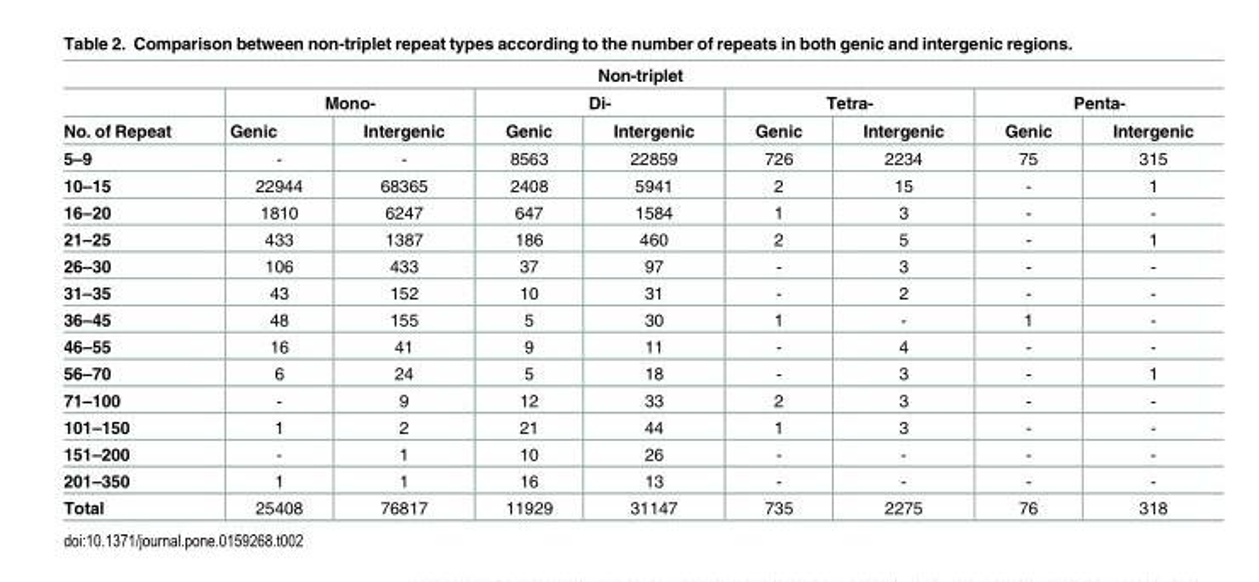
<table><thead><tr><td colspan="9">Non-triplet</td></tr><tr><td rowspan="2">No. of Repeat</td><td colspan="2">Mono-</td><td colspan="2">Di-</td><td colspan="2">Tetra-</td><td colspan="2">Penta-</td></tr><tr><td>Genic</td><td>Intergenic</td><td>Genic</td><td>Intergenic</td><td>Genic</td><td>Intergenic</td><td>Genic</td><td>Intergenic</td></tr></thead><tbody><tr><td>5–9</td><td>-</td><td>-</td><td>8563</td><td>22859</td><td>726</td><td>2234</td><td>75</td><td>315</td></tr><tr><td>10–15</td><td>22944</td><td>68365</td><td>2408</td><td>5941</td><td>2</td><td>15</td><td>-</td><td>1</td></tr><tr><td>16–20</td><td>1810</td><td>6247</td><td>647</td><td>1584</td><td>1</td><td>3</td><td>-</td><td>-</td></tr><tr><td>21–25</td><td>433</td><td>1387</td><td>186</td><td>460</td><td>2</td><td>5</td><td>-</td><td>1</td></tr><tr><td>26–30</td><td>106</td><td>433</td><td>37</td><td>97</td><td>-</td><td>3</td><td>-</td><td>-</td></tr><tr><td>31–35</td><td>43</td><td>152</td><td>10</td><td>31</td><td>-</td><td>2</td><td>-</td><td>-</td></tr><tr><td>36–45</td><td>48</td><td>155</td><td>5</td><td>30</td><td>1</td><td>-</td><td>1</td><td>-</td></tr><tr><td>46–55</td><td>16</td><td>41</td><td>9</td><td>11</td><td>-</td><td>4</td><td>-</td><td>-</td></tr><tr><td>56–70</td><td>6</td><td>24</td><td>5</td><td>18</td><td>-</td><td>3</td><td>-</td><td>1</td></tr><tr><td>71–100</td><td>-</td><td>9</td><td>12</td><td>33</td><td>2</td><td>3</td><td>-</td><td>-</td></tr><tr><td>101–150</td><td>1</td><td>2</td><td>21</td><td>44</td><td>1</td><td>3</td><td>-</td><td>-</td></tr><tr><td>151–200</td><td>-</td><td>1</td><td>10</td><td>26</td><td>-</td><td>-</td><td>-</td><td>-</td></tr><tr><td>201–350</td><td>1</td><td>1</td><td>16</td><td>13</td><td>-</td><td>-</td><td>-</td><td>-</td></tr><tr><td>Total</td><td>25408</td><td>76817</td><td>11929</td><td>31147</td><td>735</td><td>2275</td><td>76</td><td>318</td></tr></tbody></table>